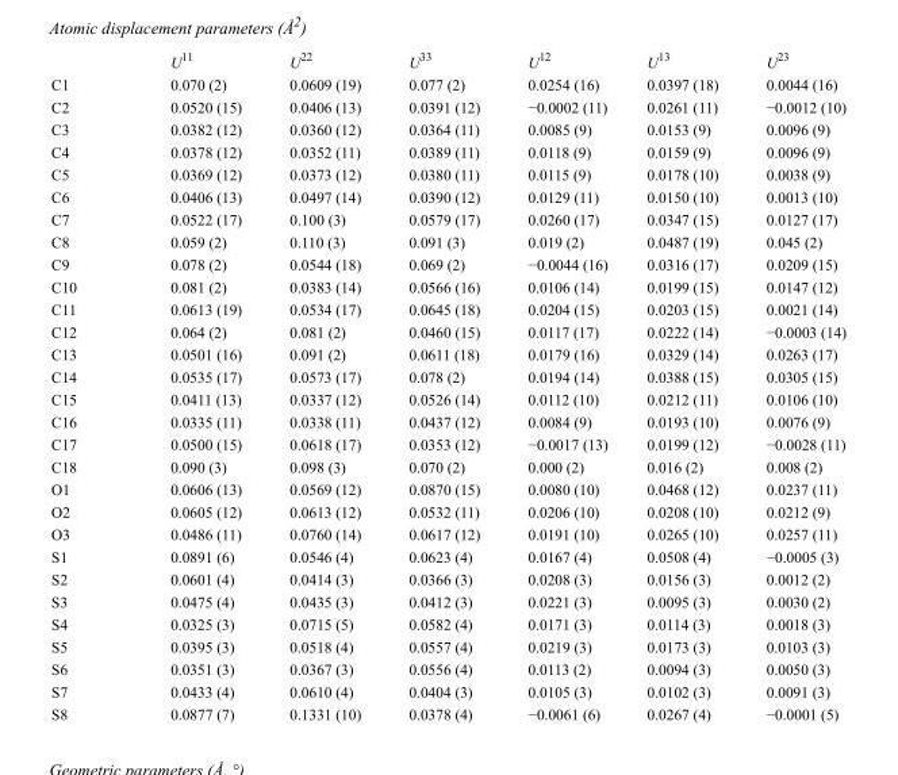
<table><thead><tr><td></td><td>U<sup>11</sup></td><td>U<sup>22</sup></td><td>U<sup>33</sup></td><td>U<sup>12</sup></td><td>U<sup>13</sup></td><td>U<sup>23</sup></td></tr></thead><tbody><tr><td>C1</td><td>0.070 (2)</td><td>0.0609 (19)</td><td>0.077 (2)</td><td>0.0254 (16)</td><td>0.0397 (18)</td><td>0.0044 (16)</td></tr><tr><td>C2</td><td>0.0520 (15)</td><td>0.0406 (13)</td><td>0.0391 (12)</td><td>−0.0002 (11)</td><td>0.0261 (11)</td><td>−0.0012 (10)</td></tr><tr><td>C3</td><td>0.0382 (12)</td><td>0.0360 (12)</td><td>0.0364 (11)</td><td>0.0085 (9)</td><td>0.0153 (9)</td><td>0.0096 (9)</td></tr><tr><td>C4</td><td>0.0378 (12)</td><td>0.0352 (11)</td><td>0.0389 (11)</td><td>0.0118 (9)</td><td>0.0159 (9)</td><td>0.0096 (9)</td></tr><tr><td>C5</td><td>0.0369 (12)</td><td>0.0373 (12)</td><td>0.0380 (11)</td><td>0.0115 (9)</td><td>0.0178 (10)</td><td>0.0038 (9)</td></tr><tr><td>C6</td><td>0.0406 (13)</td><td>0.0497 (14)</td><td>0.0390 (12)</td><td>0.0129 (11)</td><td>0.0150 (10)</td><td>0.0013 (10)</td></tr><tr><td>C7</td><td>0.0522 (17)</td><td>0.100 (3)</td><td>0.0579 (17)</td><td>0.0260 (17)</td><td>0.0347 (15)</td><td>0.0127 (17)</td></tr><tr><td>C8</td><td>0.059 (2)</td><td>0.110 (3)</td><td>0.091 (3)</td><td>0.019 (2)</td><td>0.0487 (19)</td><td>0.045 (2)</td></tr><tr><td>C9</td><td>0.078 (2)</td><td>0.0544 (18)</td><td>0.069 (2)</td><td>−0.0044 (16)</td><td>0.0316 (17)</td><td>0.0209 (15)</td></tr><tr><td>C10</td><td>0.081 (2)</td><td>0.0383 (14)</td><td>0.0566 (16)</td><td>0.0106 (14)</td><td>0.0199 (15)</td><td>0.0147 (12)</td></tr><tr><td>C11</td><td>0.0613 (19)</td><td>0.0534 (17)</td><td>0.0645 (18)</td><td>0.0204 (15)</td><td>0.0203 (15)</td><td>0.0021 (14)</td></tr><tr><td>C12</td><td>0.064 (2)</td><td>0.081 (2)</td><td>0.0460 (15)</td><td>0.0117 (17)</td><td>0.0222 (14)</td><td>−0.0003 (14)</td></tr><tr><td>C13</td><td>0.0501 (16)</td><td>0.091 (2)</td><td>0.0611 (18)</td><td>0.0179 (16)</td><td>0.0329 (14)</td><td>0.0263 (17)</td></tr><tr><td>C14</td><td>0.0535 (17)</td><td>0.0573 (17)</td><td>0.078 (2)</td><td>0.0194 (14)</td><td>0.0388 (15)</td><td>0.0305 (15)</td></tr><tr><td>C15</td><td>0.0411 (13)</td><td>0.0337 (12)</td><td>0.0526 (14)</td><td>0.0112 (10)</td><td>0.0212 (11)</td><td>0.0106 (10)</td></tr><tr><td>C16</td><td>0.0335 (11)</td><td>0.0338 (11)</td><td>0.0437 (12)</td><td>0.0084 (9)</td><td>0.0193 (10)</td><td>0.0076 (9)</td></tr><tr><td>C17</td><td>0.0500 (15)</td><td>0.0618 (17)</td><td>0.0353 (12)</td><td>−0.0017 (13)</td><td>0.0199 (12)</td><td>−0.0028 (11)</td></tr><tr><td>C18</td><td>0.090 (3)</td><td>0.098 (3)</td><td>0.070 (2)</td><td>0.000 (2)</td><td>0.016 (2)</td><td>0.008 (2)</td></tr><tr><td>O1</td><td>0.0606 (13)</td><td>0.0569 (12)</td><td>0.0870 (15)</td><td>0.0080 (10)</td><td>0.0468 (12)</td><td>0.0237 (11)</td></tr><tr><td>O2</td><td>0.0605 (12)</td><td>0.0613 (12)</td><td>0.0532 (11)</td><td>0.0206 (10)</td><td>0.0208 (10)</td><td>0.0212 (9)</td></tr><tr><td>O3</td><td>0.0486 (11)</td><td>0.0760 (14)</td><td>0.0617 (12)</td><td>0.0191 (10)</td><td>0.0265 (10)</td><td>0.0257 (11)</td></tr><tr><td>S1</td><td>0.0891 (6)</td><td>0.0546 (4)</td><td>0.0623 (4)</td><td>0.0167 (4)</td><td>0.0508 (4)</td><td>−0.0005 (3)</td></tr><tr><td>S2</td><td>0.0601 (4)</td><td>0.0414 (3)</td><td>0.0366 (3)</td><td>0.0208 (3)</td><td>0.0156 (3)</td><td>0.0012 (2)</td></tr><tr><td>S3</td><td>0.0475 (4)</td><td>0.0435 (3)</td><td>0.0412 (3)</td><td>0.0221 (3)</td><td>0.0095 (3)</td><td>0.0030 (2)</td></tr><tr><td>S4</td><td>0.0325 (3)</td><td>0.0715 (5)</td><td>0.0582 (4)</td><td>0.0171 (3)</td><td>0.0114 (3)</td><td>0.0018 (3)</td></tr><tr><td>S5</td><td>0.0395 (3)</td><td>0.0518 (4)</td><td>0.0557 (4)</td><td>0.0219 (3)</td><td>0.0173 (3)</td><td>0.0103 (3)</td></tr><tr><td>S6</td><td>0.0351 (3)</td><td>0.0367 (3)</td><td>0.0556 (4)</td><td>0.0113 (2)</td><td>0.0094 (3)</td><td>0.0050 (3)</td></tr><tr><td>S7</td><td>0.0433 (4)</td><td>0.0610 (4)</td><td>0.0404 (3)</td><td>0.0105 (3)</td><td>0.0102 (3)</td><td>0.0091 (3)</td></tr><tr><td>S8</td><td>0.0877 (7)</td><td>0.1331 (10)</td><td>0.0378 (4)</td><td>−0.0061 (6)</td><td>0.0267 (4)</td><td>−0.0001 (5)</td></tr></tbody></table>